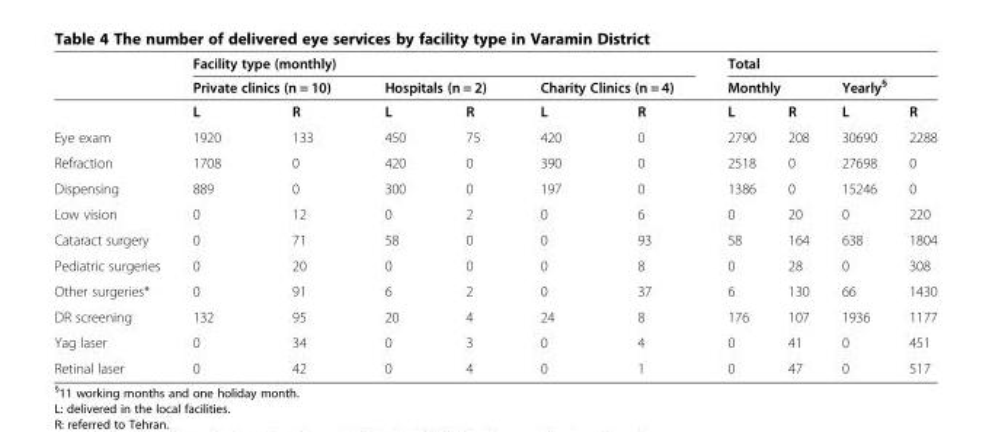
<table><thead><tr><td rowspan="3"></td><td colspan="6">Facility type (monthly)</td><td colspan="4">Total</td></tr><tr><td colspan="2">Private clinics (n = 10)</td><td colspan="2">Hospitals (n = 2)</td><td colspan="2">Charity Clinics (n = 4)</td><td colspan="2">Monthly</td><td colspan="2">Yearly<sup>§</sup></td></tr><tr><td>L</td><td>R</td><td>L</td><td>R</td><td>L</td><td>R</td><td>L</td><td>R</td><td>L</td><td>R</td></tr></thead><tbody><tr><td>Eye exam</td><td>1920</td><td>133</td><td>450</td><td>75</td><td>420</td><td>0</td><td>2790</td><td>208</td><td>30690</td><td>2288</td></tr><tr><td>Refraction</td><td>1708</td><td>0</td><td>420</td><td>0</td><td>390</td><td>0</td><td>2518</td><td>0</td><td>27698</td><td>0</td></tr><tr><td>Dispensing</td><td>889</td><td>0</td><td>300</td><td>0</td><td>197</td><td>0</td><td>1386</td><td>0</td><td>15246</td><td>0</td></tr><tr><td>Low vision</td><td>0</td><td>12</td><td>0</td><td>2</td><td>0</td><td>6</td><td>0</td><td>20</td><td>0</td><td>220</td></tr><tr><td>Cataract surgery</td><td>0</td><td>71</td><td>58</td><td>0</td><td>0</td><td>93</td><td>58</td><td>164</td><td>638</td><td>1804</td></tr><tr><td>Pediatric surgeries</td><td>0</td><td>20</td><td>0</td><td>0</td><td>0</td><td>8</td><td>0</td><td>28</td><td>0</td><td>308</td></tr><tr><td>Other surgeries*</td><td>0</td><td>91</td><td>6</td><td>2</td><td>0</td><td>37</td><td>6</td><td>130</td><td>66</td><td>1430</td></tr><tr><td>DR screening</td><td>132</td><td>95</td><td>20</td><td>4</td><td>24</td><td>8</td><td>176</td><td>107</td><td>1936</td><td>1177</td></tr><tr><td>Yag laser</td><td>0</td><td>34</td><td>0</td><td>3</td><td>0</td><td>4</td><td>0</td><td>41</td><td>0</td><td>451</td></tr><tr><td>Retinal laser</td><td>0</td><td>42</td><td>0</td><td>4</td><td>0</td><td>1</td><td>0</td><td>47</td><td>0</td><td>517</td></tr></tbody></table>